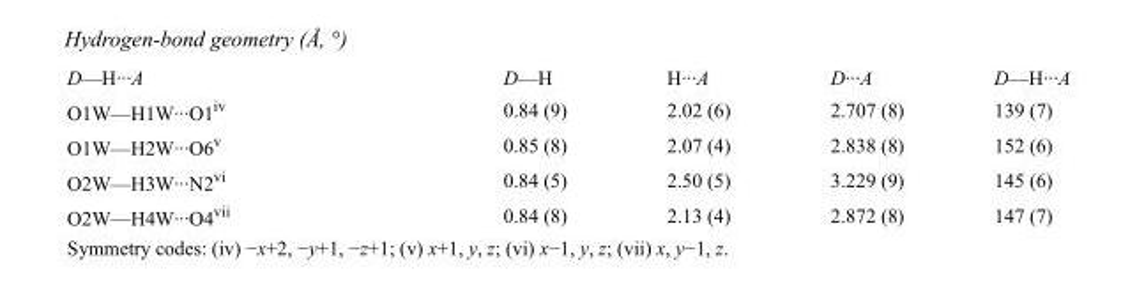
<table><tbody><tr><td>D—H···A</td><td>D—H</td><td>H···A</td><td>D···A</td><td>D—H···A</td></tr><tr><td>O1W—H1W···O1<sup>iv</sup></td><td>0.84 (9)</td><td>2.02 (6)</td><td>2.707 (8)</td><td>139 (7)</td></tr><tr><td>O1W—H2W···O6<sup>v</sup></td><td>0.85 (8)</td><td>2.07 (4)</td><td>2.838 (8)</td><td>152 (6)</td></tr><tr><td>O2W—H3W···N2<sup>vi</sup></td><td>0.84 (5)</td><td>2.50 (5)</td><td>3.229 (9)</td><td>145 (6)</td></tr><tr><td>O2W—H4W···O4<sup>vii</sup></td><td>0.84 (8)</td><td>2.13 (4)</td><td>2.872 (8)</td><td>147 (7)</td></tr></tbody></table>